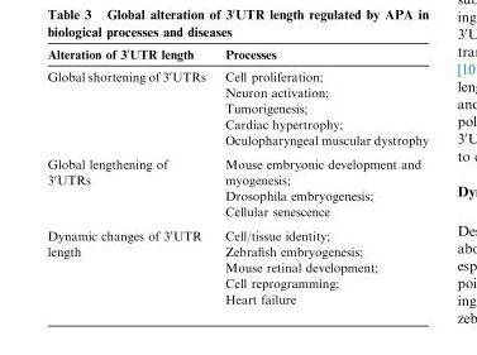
<table><thead><tr><td>Alteration of 3′UTR length</td><td>Processes</td></tr></thead><tbody><tr><td>Global shortening of 3′UTRs</td><td>Cell proliferation; Neuron activation; Tumorigenesis; Cardiac hypertrophy; Oculopharyngeal muscular dystrophy</td></tr><tr><td>Global lengthening of 3′UTRs</td><td>Mouse embryonic development and myogenesis; Drosophila embryogenesis; Cellular senescence</td></tr><tr><td>Dynamic changes of 3′UTR length</td><td>Cell/tissue identity; Zebrafish embryogenesis; Mouse retinal development; Cell reprogramming; Heart failure</td></tr></tbody></table>